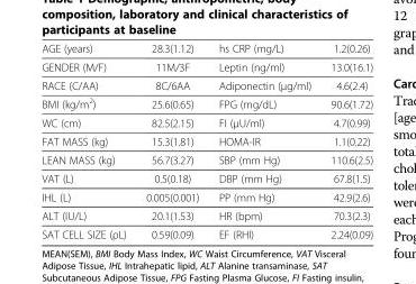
<table><tbody><tr><td>AGE (years)</td><td>28.3(1.12)</td><td>hs CRP (mg/L)</td><td>1.2(0.26)</td></tr><tr><td>GENDER (M/F)</td><td>11M/3F</td><td>Leptin (ng/ml)</td><td>13.0(16.1)</td></tr><tr><td>RACE (C/AA)</td><td>8C/6AA</td><td>Adiponectin (μg/ml)</td><td>4.6(2.4)</td></tr><tr><td>BMI (kg/m<sup>2</sup>)</td><td>25.6(0.65)</td><td>FPG (mg/dL)</td><td>90.6(1.72)</td></tr><tr><td>WC (cm)</td><td>82.5(2.15)</td><td>FI (μU/ml)</td><td>4.7(0.99)</td></tr><tr><td>FAT MASS (kg)</td><td>15.3(1.81)</td><td>HOMA-IR</td><td>1.1(0.22)</td></tr><tr><td>LEAN MASS (kg)</td><td>56.7(3.27)</td><td>SBP (mm Hg)</td><td>110.6(2.5)</td></tr><tr><td>VAT (L)</td><td>0.5(0.18)</td><td>DBP (mm Hg)</td><td>67.8(1.5)</td></tr><tr><td>IHL (L)</td><td>0.005(0.001)</td><td>PP (mm Hg)</td><td>42.9(2.6)</td></tr><tr><td>ALT (IU/L)</td><td>20.1(1.53)</td><td>HR (bpm)</td><td>70.3(2.3)</td></tr><tr><td>SAT CELL SIZE (ρL)</td><td>0.59(0.09)</td><td>EF (RHI)</td><td>2.24(0.09)</td></tr></tbody></table>